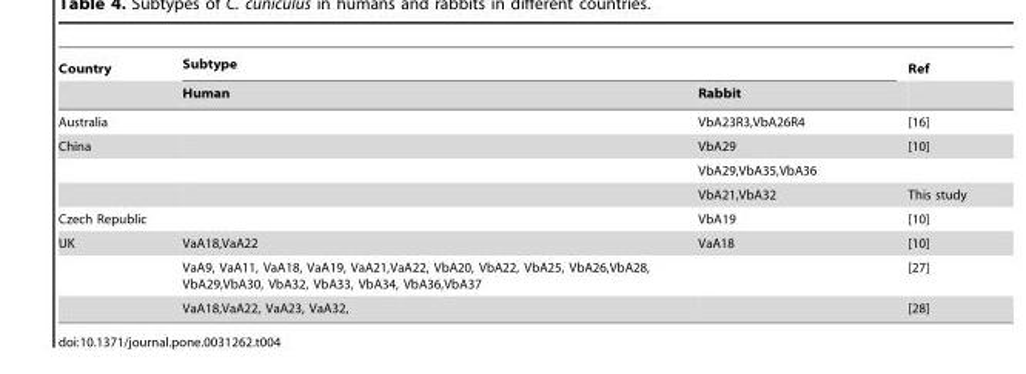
<table><thead><tr><td rowspan="2">Country</td><td colspan="2">Subtype</td><td rowspan="2">Ref</td></tr><tr><td>Human</td><td>Rabbit</td></tr></thead><tbody><tr><td>Australia</td><td></td><td>VbA23R3,VbA26R4</td><td>[16]</td></tr><tr><td rowspan="3">China</td><td></td><td>VbA29</td><td>[10]</td></tr><tr><td></td><td>VbA29,VbA35,VbA36</td><td></td></tr><tr><td></td><td>VbA21,VbA32</td><td>This study</td></tr><tr><td>Czech Republic</td><td></td><td>VbA19</td><td>[10]</td></tr><tr><td rowspan="3">UK</td><td>VaA18,VaA22</td><td>VaA18</td><td>[10]</td></tr><tr><td>VaA9, VaA11, VaA18, VaA19, VaA21,VaA22, VbA20, VbA22, VbA25, VbA26,VbA28, VbA29,VbA30, VbA32, VbA33, VbA34, VbA36,VbA37</td><td></td><td>[27]</td></tr><tr><td>VaA18,VaA22, VaA23, VaA32,</td><td></td><td>[28]</td></tr></tbody></table>